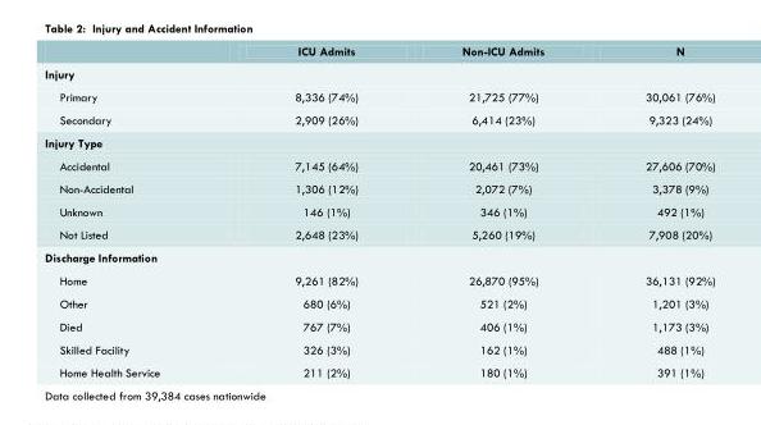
<table><thead><tr><td></td><td>ICU Admits</td><td>Non-ICU Admits</td><td>N</td></tr></thead><tbody><tr><td colspan="4">Injury</td></tr><tr><td>Primary</td><td>8,336 (74%)</td><td>21,725 (77%)</td><td>30,061 (76%)</td></tr><tr><td>Secondary</td><td>2,909 (26%)</td><td>6,414 (23%)</td><td>9,323 (24%)</td></tr><tr><td colspan="4">Injury Type</td></tr><tr><td>Accidental</td><td>7,145 (64%)</td><td>20,461 (73%)</td><td>27,606 (70%)</td></tr><tr><td>Non-Accidental</td><td>1,306 (12%)</td><td>2,072 (7%)</td><td>3,378 (9%)</td></tr><tr><td>Unknown</td><td>146 (1%)</td><td>346 (1%)</td><td>492 (1%)</td></tr><tr><td>Not Listed</td><td>2,648 (23%)</td><td>5,260 (19%)</td><td>7,908 (20%)</td></tr><tr><td colspan="4">Discharge Information</td></tr><tr><td>Home</td><td>9,261 (82%)</td><td>26,870 (95%)</td><td>36,131 (92%)</td></tr><tr><td>Other</td><td>680 (6%)</td><td>521 (2%)</td><td>1,201 (3%)</td></tr><tr><td>Died</td><td>767 (7%)</td><td>406 (1%)</td><td>1,173 (3%)</td></tr><tr><td>Skilled Facility</td><td>326 (3%)</td><td>162 (1%)</td><td>488 (1%)</td></tr><tr><td>Home Health Service</td><td>211 (2%)</td><td>180 (1%)</td><td>391 (1%)</td></tr></tbody></table>